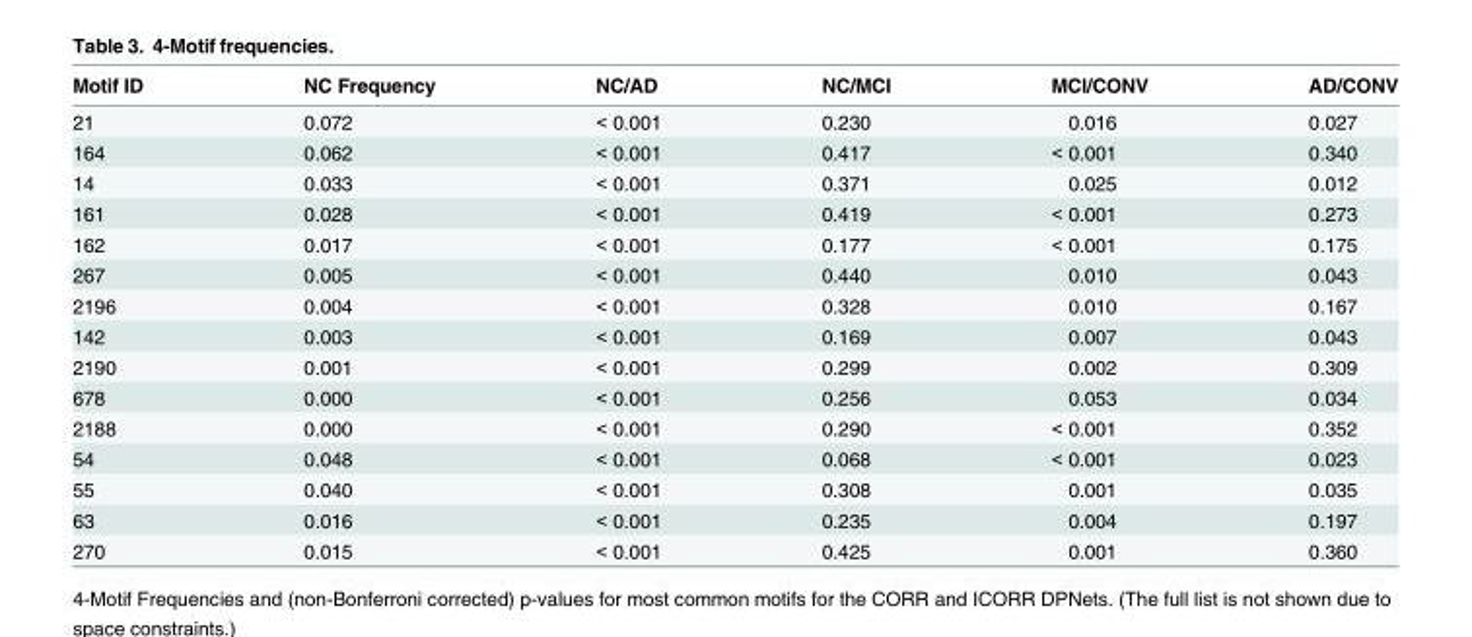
<table><thead><tr><td>Motif ID</td><td>NC Frequency</td><td>NC/AD</td><td>NC/MCI</td><td>MCI/CONV</td><td>AD/CONV</td></tr></thead><tbody><tr><td>21</td><td>0.072</td><td>&lt; 0.001</td><td>0.230</td><td>0.016</td><td>0.027</td></tr><tr><td>164</td><td>0.062</td><td>&lt; 0.001</td><td>0.417</td><td>&lt; 0.001</td><td>0.340</td></tr><tr><td>14</td><td>0.033</td><td>&lt; 0.001</td><td>0.371</td><td>0.025</td><td>0.012</td></tr><tr><td>161</td><td>0.028</td><td>&lt; 0.001</td><td>0.419</td><td>&lt; 0.001</td><td>0.273</td></tr><tr><td>162</td><td>0.017</td><td>&lt; 0.001</td><td>0.177</td><td>&lt; 0.001</td><td>0.175</td></tr><tr><td>267</td><td>0.005</td><td>&lt; 0.001</td><td>0.440</td><td>0.010</td><td>0.043</td></tr><tr><td>2196</td><td>0.004</td><td>&lt; 0.001</td><td>0.328</td><td>0.010</td><td>0.167</td></tr><tr><td>142</td><td>0.003</td><td>&lt; 0.001</td><td>0.169</td><td>0.007</td><td>0.043</td></tr><tr><td>2190</td><td>0.001</td><td>&lt; 0.001</td><td>0.299</td><td>0.002</td><td>0.309</td></tr><tr><td>678</td><td>0.000</td><td>&lt; 0.001</td><td>0.256</td><td>0.053</td><td>0.034</td></tr><tr><td>2188</td><td>0.000</td><td>&lt; 0.001</td><td>0.290</td><td>&lt; 0.001</td><td>0.352</td></tr><tr><td>54</td><td>0.048</td><td>&lt; 0.001</td><td>0.068</td><td>&lt; 0.001</td><td>0.023</td></tr><tr><td>55</td><td>0.040</td><td>&lt; 0.001</td><td>0.308</td><td>0.001</td><td>0.035</td></tr><tr><td>63</td><td>0.016</td><td>&lt; 0.001</td><td>0.235</td><td>0.004</td><td>0.197</td></tr><tr><td>270</td><td>0.015</td><td>&lt; 0.001</td><td>0.425</td><td>0.001</td><td>0.360</td></tr></tbody></table>